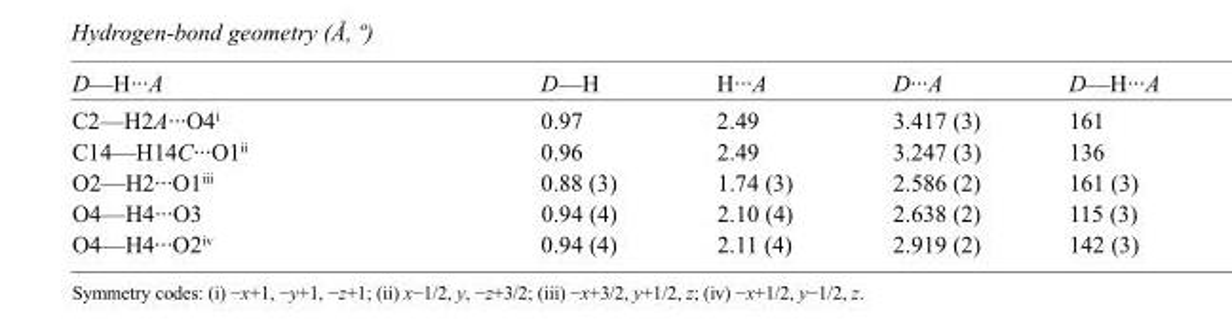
<table><tbody><tr><td>D—H···A</td><td>D—H</td><td>H···A</td><td>D···A</td><td>D—H···A</td></tr><tr><td>C2—H2A···O4<sup>i</sup></td><td>0.97</td><td>2.49</td><td>3.417 (3)</td><td>161</td></tr><tr><td>C14—H14C···O1<sup>ii</sup></td><td>0.96</td><td>2.49</td><td>3.247 (3)</td><td>136</td></tr><tr><td>O2—H2···O1<sup>iii</sup></td><td>0.88 (3)</td><td>1.74 (3)</td><td>2.586 (2)</td><td>161 (3)</td></tr><tr><td>O4—H4···O3</td><td>0.94 (4)</td><td>2.10 (4)</td><td>2.638 (2)</td><td>115 (3)</td></tr><tr><td>O4—H4···O2<sup>iv</sup></td><td>0.94 (4)</td><td>2.11 (4)</td><td>2.919 (2)</td><td>142 (3)</td></tr></tbody></table>